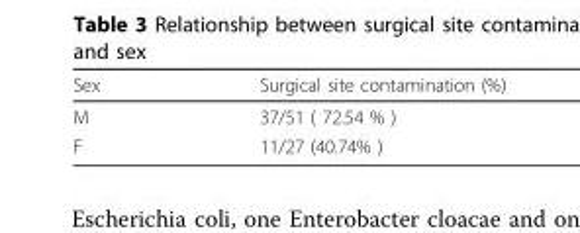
<table><thead><tr><td>Sex</td><td>Surgical site contamination (%)</td></tr></thead><tbody><tr><td>M</td><td>37/51 ( 72.54 % )</td></tr><tr><td>F</td><td>11/27 (40.74% )</td></tr></tbody></table>